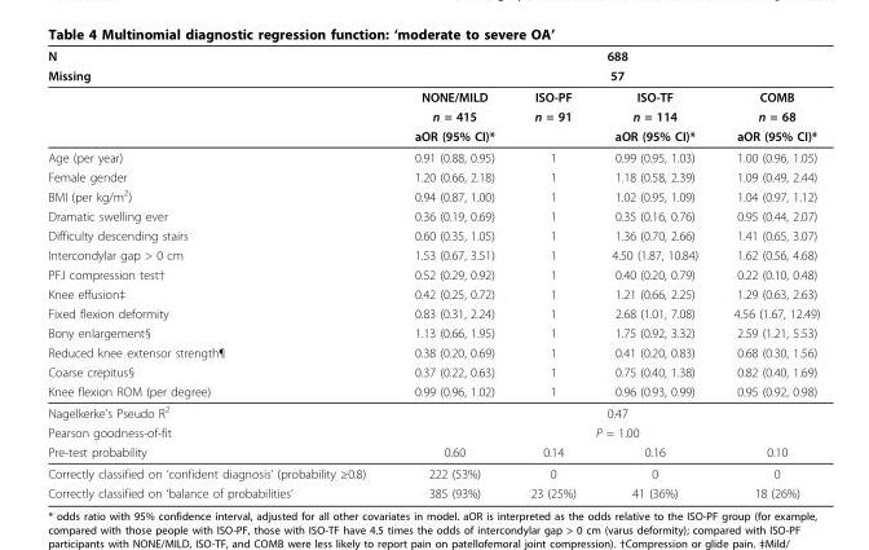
<table><thead><tr><td rowspan="3">N Missing</td><td rowspan="2" colspan="4">688 57</td></tr><tr></tr><tr><td>NONE/MILD</td><td>ISO-PF</td><td>ISO-TF</td><td>COMB</td></tr></thead><tbody><tr><td></td><td>n = 415</td><td>n = 91</td><td>n = 114</td><td>n = 68</td></tr><tr><td></td><td>aOR (95% CI)*</td><td></td><td>aOR (95% CI)*</td><td>aOR (95% CI)*</td></tr><tr><td>Age (per year)</td><td>0.91 (0.88, 0.95)</td><td>1</td><td>0.99 (0.95, 1.03)</td><td>1.00 (0.96, 1.05)</td></tr><tr><td>Female gender</td><td>1.20 (0.66, 2.18)</td><td>1</td><td>1.18 (0.58, 2.39)</td><td>1.09 (0.49, 2.44)</td></tr><tr><td>BMI (per kg/m<sup>2</sup>)</td><td>0.94 (0.87, 1.00)</td><td>1</td><td>1.02 (0.95, 1.09)</td><td>1.04 (0.97, 1.12)</td></tr><tr><td>Dramatic swelling ever</td><td>0.36 (0.19, 0.69)</td><td>1</td><td>0.35 (0.16, 0.76)</td><td>0.95 (0.44, 2.07)</td></tr><tr><td>Difficulty descending stairs</td><td>0.60 (0.35, 1.05)</td><td>1</td><td>1.36 (0.70, 2.66)</td><td>1.41 (0.65, 3.07)</td></tr><tr><td>Intercondylar gap &gt; 0 cm</td><td>1.53 (0.67, 3.51)</td><td>1</td><td>4.50 (1.87, 10.84)</td><td>1.62 (0.56, 4.68)</td></tr><tr><td>PFJ compression test†</td><td>0.52 (0.29, 0.92)</td><td>1</td><td>0.40 (0.20, 0.79)</td><td>0.22 (0.10, 0.48)</td></tr><tr><td>Knee effusion‡</td><td>0.42 (0.25, 0.72)</td><td>1</td><td>1.21 (0.66, 2.25)</td><td>1.29 (0.63, 2.63)</td></tr><tr><td>Fixed flexion deformity</td><td>0.83 (0.31, 2.24)</td><td>1</td><td>2.68 (1.01, 7.08)</td><td>4.56 (1.67, 12.49)</td></tr><tr><td>Bony enlargement§</td><td>1.13 (0.66, 1.95)</td><td>1</td><td>1.75 (0.92, 3.32)</td><td>2.59 (1.21, 5.53)</td></tr><tr><td>Reduced knee extensor strength¶</td><td>0.38 (0.20, 0.69)</td><td>1</td><td>0.41 (0.20, 0.83)</td><td>0.68 (0.30, 1.56)</td></tr><tr><td>Coarse crepitus§</td><td>0.37 (0.22, 0.63)</td><td>1</td><td>0.75 (0.40, 1.38)</td><td>0.82 (0.40, 1.69)</td></tr><tr><td>Knee flexion ROM (per degree)</td><td>0.99 (0.96, 1.02)</td><td>1</td><td>0.96 (0.93, 0.99)</td><td>0.95 (0.92, 0.98)</td></tr><tr><td>Nagelkerke’s Pseudo R<sup>2</sup></td><td colspan="4">0.47</td></tr><tr><td>Pearson goodness-of-fit</td><td colspan="4">P = 1.00</td></tr><tr><td>Pre-test probability</td><td>0.60</td><td>0.14</td><td>0.16</td><td>0.10</td></tr><tr><td>Correctly classified on ‘confident diagnosis’ (probability ≥0.8)</td><td>222 (53%)</td><td>0</td><td>0</td><td>0</td></tr><tr><td>Correctly classified on ‘balance of probabilities’</td><td>385 (93%)</td><td>23 (25%)</td><td>41 (36%)</td><td>18 (26%)</td></tr></tbody></table>